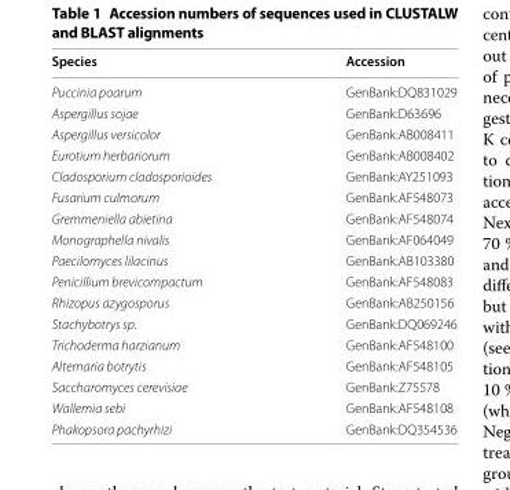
<table><thead><tr><td>Species</td><td>Accession</td></tr></thead><tbody><tr><td>Puccinia poarum</td><td>GenBank:DQ831029</td></tr><tr><td>Aspergillus sojae</td><td>GenBank:D63696</td></tr><tr><td>Aspergillus versicolor</td><td>GenBank:AB008411</td></tr><tr><td>Eurotium herbariorum</td><td>GenBank:AB008402</td></tr><tr><td>Cladosporium cladosporioides</td><td>GenBank:AY251093</td></tr><tr><td>Fusarium culmorum</td><td>GenBank:AF548073</td></tr><tr><td>Gremmeniella abietina</td><td>GenBank:AF548074</td></tr><tr><td>Monographella nivalis</td><td>GenBank:AF064049</td></tr><tr><td>Paecilomyces lilacinus</td><td>GenBank:AB103380</td></tr><tr><td>Penicillium brevicompactum</td><td>GenBank:AF548083</td></tr><tr><td>Rhizopus azygosporus</td><td>GenBank:AB250156</td></tr><tr><td>Stachybotrys sp.</td><td>GenBank:DQ069246</td></tr><tr><td>Trichoderma harzianum</td><td>GenBank:AF548100</td></tr><tr><td>Alternaria botrytis</td><td>GenBank:AF548105</td></tr><tr><td>Saccharomyces cerevisiae</td><td>GenBank:Z75578</td></tr><tr><td>Wallemia sebi</td><td>GenBank:AF548108</td></tr><tr><td>Phakopsora pachyrhizi</td><td>GenBank:DQ354536</td></tr></tbody></table>